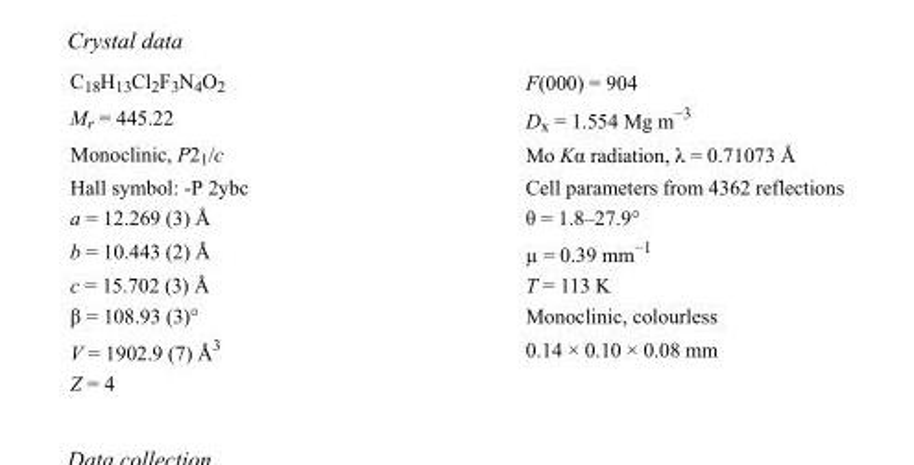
<table><tbody><tr><td>C<sub>18</sub>H<sub>13</sub>Cl<sub>2</sub>F<sub>3</sub>N<sub>4</sub>O<sub>2</sub></td><td>F(000) = 904</td></tr><tr><td>M<sub>r</sub> = 445.22</td><td>D<sub>x</sub> = 1.554 Mg m<sup>−3</sup></td></tr><tr><td>Monoclinic, P2<sub>1</sub>/c</td><td>Mo Kα radiation, λ = 0.71073 Å</td></tr><tr><td>Hall symbol: -P 2ybc</td><td>Cell parameters from 4362 reflections</td></tr><tr><td>a = 12.269 (3) Å</td><td>θ = 1.8–27.9°</td></tr><tr><td>b = 10.443 (2) Å</td><td>µ = 0.39 mm<sup>−1</sup></td></tr><tr><td>c = 15.702 (3) Å</td><td>T = 113 K</td></tr><tr><td>β = 108.93 (3)°</td><td>Monoclinic, colourless</td></tr><tr><td>V = 1902.9 (7) Å<sup>3</sup></td><td>0.14 × 0.10 × 0.08 mm</td></tr><tr><td>Z = 4</td><td></td></tr></tbody></table>